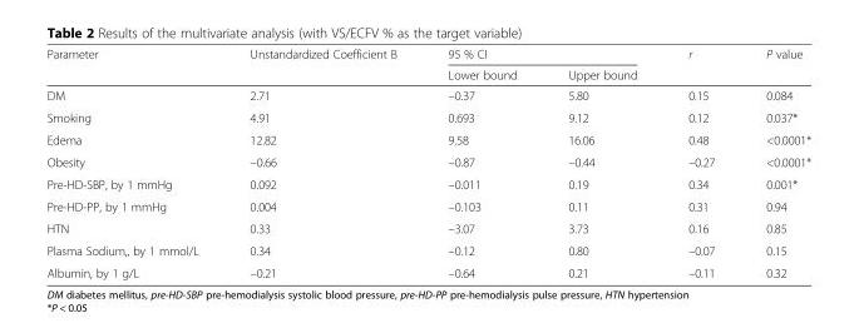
<table><thead><tr><td rowspan="2">Parameter</td><td rowspan="2">Unstandardized Coefficient B</td><td colspan="2">95 % CI</td><td rowspan="2">r</td><td rowspan="2">P value</td></tr><tr><td>Lower bound</td><td>Upper bound</td></tr></thead><tbody><tr><td>DM</td><td>2.71</td><td>–0.37</td><td>5.80</td><td>0.15</td><td>0.084</td></tr><tr><td>Smoking</td><td>4.91</td><td>0.693</td><td>9.12</td><td>0.12</td><td>0.037*</td></tr><tr><td>Edema</td><td>12.82</td><td>9.58</td><td>16.06</td><td>0.48</td><td>&lt;0.0001*</td></tr><tr><td>Obesity</td><td>–0.66</td><td>–0.87</td><td>–0.44</td><td>–0.27</td><td>&lt;0.0001*</td></tr><tr><td>Pre-HD-SBP, by 1 mmHg</td><td>0.092</td><td>–0.011</td><td>0.19</td><td>0.34</td><td>0.001*</td></tr><tr><td>Pre-HD-PP, by 1 mmHg</td><td>0.004</td><td>–0.103</td><td>0.11</td><td>0.31</td><td>0.94</td></tr><tr><td>HTN</td><td>0.33</td><td>–3.07</td><td>3.73</td><td>0.16</td><td>0.85</td></tr><tr><td>Plasma Sodium,, by 1 mmol/L</td><td>0.34</td><td>–0.12</td><td>0.80</td><td>–0.07</td><td>0.15</td></tr><tr><td>Albumin, by 1 g/L</td><td>–0.21</td><td>–0.64</td><td>0.21</td><td>–0.11</td><td>0.32</td></tr></tbody></table>